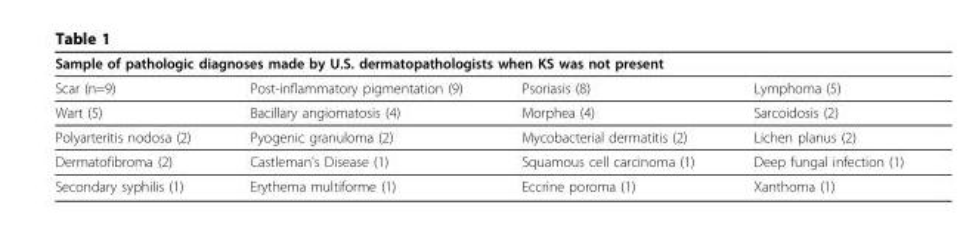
<table><thead><tr><td colspan="4">Sample of pathologic diagnoses made by U.S. dermatopathologists when KS was not present</td></tr><tr><td>Scar (n=9)</td><td>Post-inflammatory pigmentation (9)</td><td>Psoriasis (8)</td><td>Lymphoma (5)</td></tr></thead><tbody><tr><td>Wart (5)</td><td>Bacillary angiomatosis (4)</td><td>Morphea (4)</td><td>Sarcoidosis (2)</td></tr><tr><td>Polyarteritis nodosa (2)</td><td>Pyogenic granuloma (2)</td><td>Mycobacterial dermatitis (2)</td><td>Lichen planus (2)</td></tr><tr><td>Dermatofibroma (2)</td><td>Castleman’s Disease (1)</td><td>Squamous cell carcinoma (1)</td><td>Deep fungal infection (1)</td></tr><tr><td>Secondary syphilis (1)</td><td>Erythema multiforme (1)</td><td>Eccrine poroma (1)</td><td>Xanthoma (1)</td></tr></tbody></table>